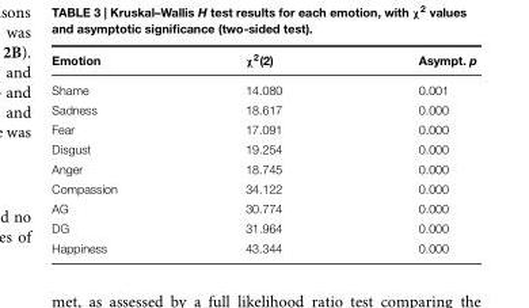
<table><thead><tr><td>Emotion</td><td>χ<sup>2</sup>(2)</td><td>Asympt. p</td></tr></thead><tbody><tr><td>Shame</td><td>14.080</td><td>0.001</td></tr><tr><td>Sadness</td><td>18.617</td><td>0.000</td></tr><tr><td>Fear</td><td>17.091</td><td>0.000</td></tr><tr><td>Disgust</td><td>19.254</td><td>0.000</td></tr><tr><td>Anger</td><td>18.745</td><td>0.000</td></tr><tr><td>Compassion</td><td>34.122</td><td>0.000</td></tr><tr><td>AG</td><td>30.774</td><td>0.000</td></tr><tr><td>DG</td><td>31.964</td><td>0.000</td></tr><tr><td>Happiness</td><td>43.344</td><td>0.000</td></tr></tbody></table>